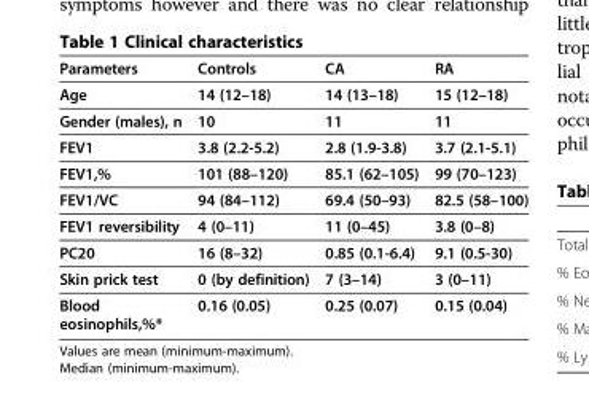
<table><thead><tr><td>Parameters</td><td>Controls</td><td>CA</td><td>RA</td></tr></thead><tbody><tr><td>Age</td><td>14 (12–18)</td><td>14 (13–18)</td><td>15 (12–18)</td></tr><tr><td>Gender (males), n</td><td>10</td><td>11</td><td>11</td></tr><tr><td>FEV1</td><td>3.8 (2.2-5.2)</td><td>2.8 (1.9-3.8)</td><td>3.7 (2.1-5.1)</td></tr><tr><td>FEV1,%</td><td>101 (88–120)</td><td>85.1 (62–105)</td><td>99 (70–123)</td></tr><tr><td>FEV1/VC</td><td>94 (84–112)</td><td>69.4 (50–93)</td><td>82.5 (58–100)</td></tr><tr><td>FEV1 reversibility</td><td>4 (0–11)</td><td>11 (0–45)</td><td>3.8 (0–8)</td></tr><tr><td>PC20</td><td>16 (8–32)</td><td>0.85 (0.1-6.4)</td><td>9.1 (0.5-30)</td></tr><tr><td>Skin prick test</td><td>0 (by definition)</td><td>7 (3–14)</td><td>3 (0–11)</td></tr><tr><td>Blood eosinophils,%*</td><td>0.16 (0.05)</td><td>0.25 (0.07)</td><td>0.15 (0.04)</td></tr></tbody></table>